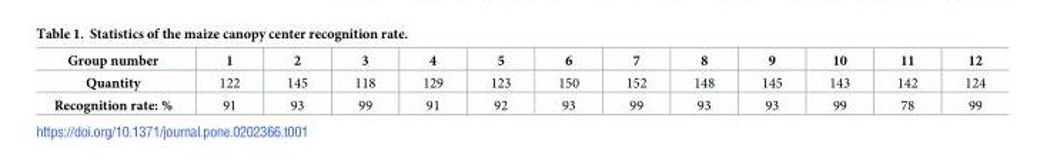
<table><thead><tr><td>Group number</td><td>1</td><td>2</td><td>3</td><td>4</td><td>5</td><td>6</td><td>7</td><td>8</td><td>9</td><td>10</td><td>11</td><td>12</td></tr></thead><tbody><tr><td>Quantity</td><td>122</td><td>145</td><td>118</td><td>129</td><td>123</td><td>150</td><td>152</td><td>148</td><td>145</td><td>143</td><td>142</td><td>124</td></tr><tr><td>Recognition rate: %</td><td>91</td><td>93</td><td>99</td><td>91</td><td>92</td><td>93</td><td>99</td><td>93</td><td>93</td><td>99</td><td>78</td><td>99</td></tr></tbody></table>